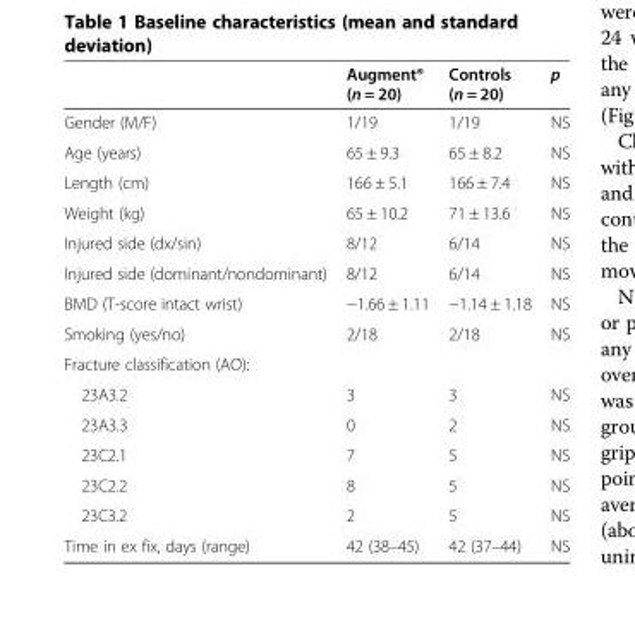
<table><thead><tr><td></td><td>Augment® (n = 20)</td><td>Controls (n = 20)</td><td>p</td></tr></thead><tbody><tr><td>Gender (M/F)</td><td>1/19</td><td>1/19</td><td>NS</td></tr><tr><td>Age (years)</td><td>65 ± 9.3</td><td>65 ± 8.2</td><td>NS</td></tr><tr><td>Length (cm)</td><td>166 ± 5.1</td><td>166 ± 7.4</td><td>NS</td></tr><tr><td>Weight (kg)</td><td>65 ± 10.2</td><td>71 ± 13.6</td><td>NS</td></tr><tr><td>Injured side (dx/sin)</td><td>8/12</td><td>6/14</td><td>NS</td></tr><tr><td>Injured side (dominant/nondominant)</td><td>8/12</td><td>6/14</td><td>NS</td></tr><tr><td>BMD (T-score intact wrist)</td><td>−1.66 ± 1.11</td><td>−1.14 ± 1.18</td><td>NS</td></tr><tr><td>Smoking (yes/no)</td><td>2/18</td><td>2/18</td><td>NS</td></tr><tr><td colspan="4">Fracture classification (AO):</td></tr><tr><td>23A3.2</td><td>3</td><td>3</td><td>NS</td></tr><tr><td>23A3.3</td><td>0</td><td>2</td><td>NS</td></tr><tr><td>23C2.1</td><td>7</td><td>5</td><td>NS</td></tr><tr><td>23C2.2</td><td>8</td><td>5</td><td>NS</td></tr><tr><td>23C3.2</td><td>2</td><td>5</td><td>NS</td></tr><tr><td>Time in ex fix, days (range)</td><td>42 (38–45)</td><td>42 (37–44)</td><td>NS</td></tr></tbody></table>